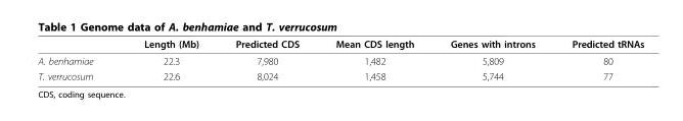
<table><thead><tr><td></td><td>Length (Mb)</td><td>Predicted CDS</td><td>Mean CDS length</td><td>Genes with introns</td><td>Predicted tRNAs</td></tr></thead><tbody><tr><td>A. benhamiae</td><td>22.3</td><td>7,980</td><td>1,482</td><td>5,809</td><td>80</td></tr><tr><td>T. verrucosum</td><td>22.6</td><td>8,024</td><td>1,458</td><td>5,744</td><td>77</td></tr></tbody></table>